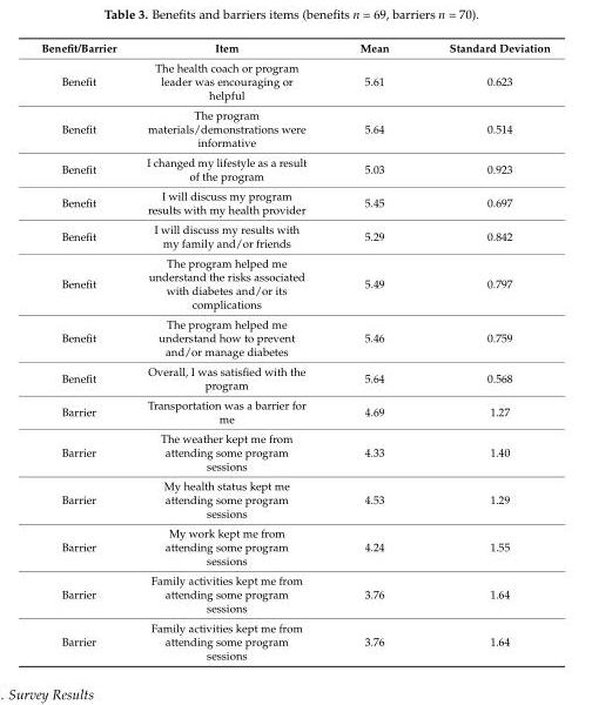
<table><thead><tr><td>Benefit/Barrier</td><td>Item</td><td>Mean</td><td>Standard Deviation</td></tr></thead><tbody><tr><td>Benefit</td><td>The health coach or program leader was encouraging or helpful</td><td>5.61</td><td>0.623</td></tr><tr><td>Benefit</td><td>The program materials/demonstrations were informative</td><td>5.64</td><td>0.514</td></tr><tr><td>Benefit</td><td>I changed my lifestyle as a result of the program</td><td>5.03</td><td>0.923</td></tr><tr><td>Benefit</td><td>I will discuss my program results with my health provider</td><td>5.45</td><td>0.697</td></tr><tr><td>Benefit</td><td>I will discuss my results with my family and/or friends</td><td>5.29</td><td>0.842</td></tr><tr><td>Benefit</td><td>The program helped me understand the risks associated with diabetes and/or its complications</td><td>5.49</td><td>0.797</td></tr><tr><td>Benefit</td><td>The program helped me understand how to prevent and/or manage diabetes</td><td>5.46</td><td>0.759</td></tr><tr><td>Benefit</td><td>Overall, I was satisfied with the program</td><td>5.64</td><td>0.568</td></tr><tr><td>Barrier</td><td>Transportation was a barrier for me</td><td>4.69</td><td>1.27</td></tr><tr><td>Barrier</td><td>The weather kept me from attending some program sessions</td><td>4.33</td><td>1.40</td></tr><tr><td>Barrier</td><td>My health status kept me attending some program sessions</td><td>4.53</td><td>1.29</td></tr><tr><td>Barrier</td><td>My work kept me from attending some program sessions</td><td>4.24</td><td>1.55</td></tr><tr><td>Barrier</td><td>Family activities kept me from attending some program sessions</td><td>3.76</td><td>1.64</td></tr><tr><td>Barrier</td><td>Family activities kept me from attending some program sessions</td><td>3.76</td><td>1.64</td></tr></tbody></table>